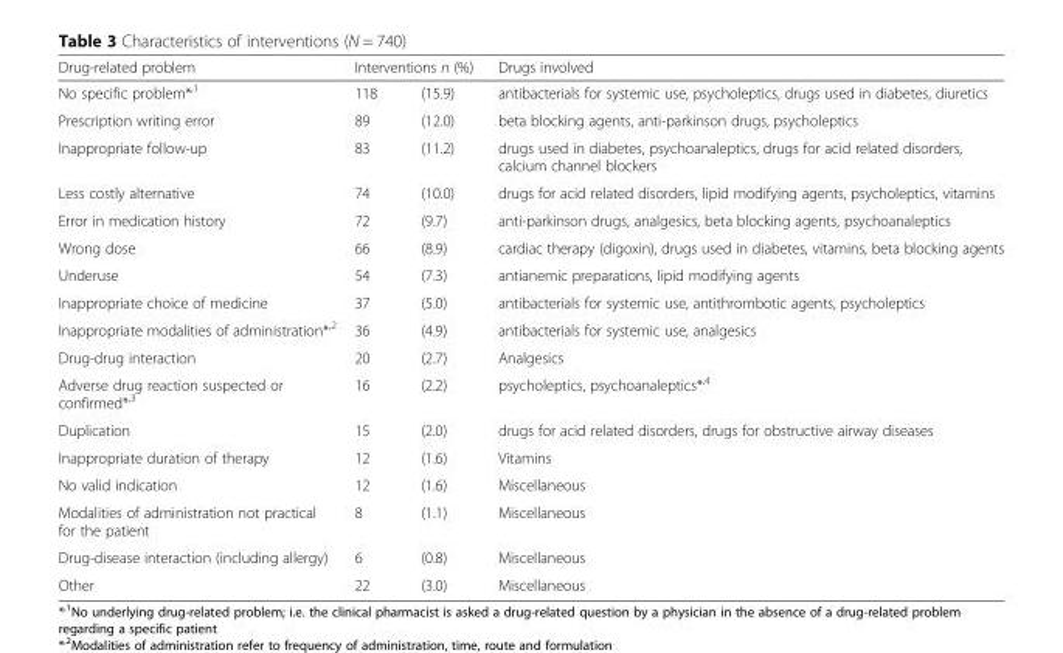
<table><thead><tr><td rowspan="2">Drug-related problem No specific problem*<sup>,1</sup></td><td colspan="2">Interventions n (%)</td><td rowspan="2">Drugs involved antibacterials for systemic use, psycholeptics, drugs used in diabetes, diuretics</td></tr><tr><td>118</td><td>(15.9)</td></tr></thead><tbody><tr><td>Prescription writing error</td><td>89</td><td>(12.0)</td><td>beta blocking agents, anti-parkinson drugs, psycholeptics</td></tr><tr><td>Inappropriate follow-up</td><td>83</td><td>(11.2)</td><td>drugs used in diabetes, psychoanaleptics, drugs for acid related disorders, calcium channel blockers</td></tr><tr><td>Less costly alternative</td><td>74</td><td>(10.0)</td><td>drugs for acid related disorders, lipid modifying agents, psycholeptics, vitamins</td></tr><tr><td>Error in medication history</td><td>72</td><td>(9.7)</td><td>anti-parkinson drugs, analgesics, beta blocking agents, psychoanaleptics</td></tr><tr><td>Wrong dose</td><td>66</td><td>(8.9)</td><td>cardiac therapy (digoxin), drugs used in diabetes, vitamins, beta blocking agents</td></tr><tr><td>Underuse</td><td>54</td><td>(7.3)</td><td>antianemic preparations, lipid modifying agents</td></tr><tr><td>Inappropriate choice of medicine</td><td>37</td><td>(5.0)</td><td>antibacterials for systemic use, antithrombotic agents, psycholeptics</td></tr><tr><td>Inappropriate modalities of administration*<sup>,2</sup></td><td>36</td><td>(4.9)</td><td>antibacterials for systemic use, analgesics</td></tr><tr><td>Drug-drug interaction</td><td>20</td><td>(2.7)</td><td>Analgesics</td></tr><tr><td>Adverse drug reaction suspected or confirmed*<sup>,3</sup></td><td>16</td><td>(2.2)</td><td>psycholeptics, psychoanaleptics*<sup>,4</sup></td></tr><tr><td>Duplication</td><td>15</td><td>(2.0)</td><td>drugs for acid related disorders, drugs for obstructive airway diseases</td></tr><tr><td>Inappropriate duration of therapy</td><td>12</td><td>(1.6)</td><td>Vitamins</td></tr><tr><td>No valid indication</td><td>12</td><td>(1.6)</td><td>Miscellaneous</td></tr><tr><td>Modalities of administration not practical for the patient</td><td>8</td><td>(1.1)</td><td>Miscellaneous</td></tr><tr><td>Drug-disease interaction (including allergy)</td><td>6</td><td>(0.8)</td><td>Miscellaneous</td></tr><tr><td>Other</td><td>22</td><td>(3.0)</td><td>Miscellaneous</td></tr></tbody></table>